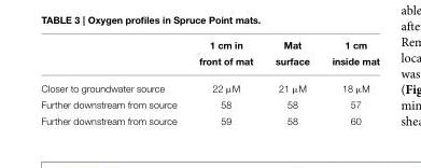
<table><thead><tr><td></td><td>1 cm in front of mat</td><td>Mat surface</td><td>1 cm inside mat</td></tr></thead><tbody><tr><td>Closer to groundwater source</td><td>22 µM</td><td>21 µM</td><td>18 µM</td></tr><tr><td>Further downstream from source</td><td>58</td><td>58</td><td>57</td></tr><tr><td>Further downstream from source</td><td>59</td><td>58</td><td>60</td></tr></tbody></table>